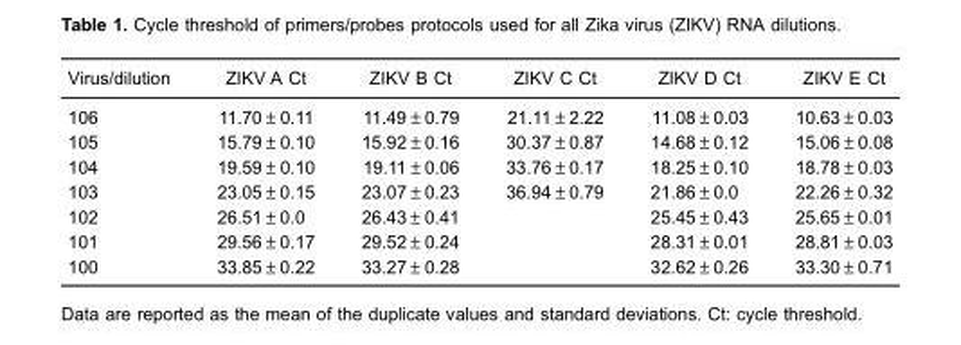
<table><thead><tr><td>Virus/dilution</td><td>ZIKV A Ct</td><td>ZIKV B Ct</td><td>ZIKV C Ct</td><td>ZIKV D Ct</td><td>ZIKV E Ct</td></tr></thead><tbody><tr><td>106</td><td>11.70±0.11</td><td>11.49±0.79</td><td>21.11±2.22</td><td>11.08±0.03</td><td>10.63±0.03</td></tr><tr><td>105</td><td>15.79±0.10</td><td>15.92±0.16</td><td>30.37±0.87</td><td>14.68±0.12</td><td>15.06±0.08</td></tr><tr><td>104</td><td>19.59±0.10</td><td>19.11±0.06</td><td>33.76±0.17</td><td>18.25±0.10</td><td>18.78±0.03</td></tr><tr><td>103</td><td>23.05±0.15</td><td>23.07±0.23</td><td>36.94±0.79</td><td>21.86±0.0</td><td>22.26±0.32</td></tr><tr><td>102</td><td>26.51±0.0</td><td>26.43±0.41</td><td></td><td>25.45±0.43</td><td>25.65±0.01</td></tr><tr><td>101</td><td>29.56±0.17</td><td>29.52±0.24</td><td></td><td>28.31±0.01</td><td>28.81±0.03</td></tr><tr><td>100</td><td>33.85±0.22</td><td>33.27±0.28</td><td></td><td>32.62±0.26</td><td>33.30±0.71</td></tr></tbody></table>